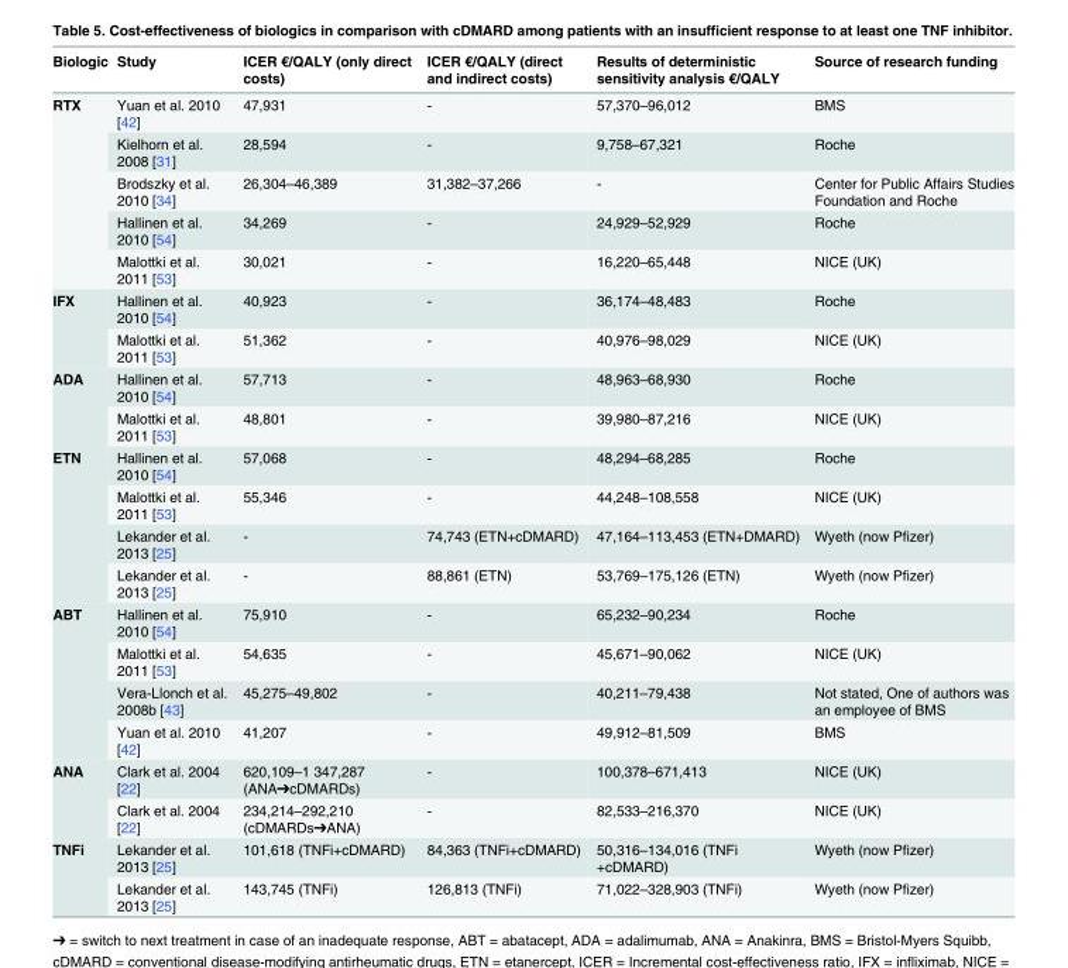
<table><thead><tr><td>Biologic</td><td>Study</td><td>ICER €/QALY (only direct costs)</td><td>ICER €/QALY (direct and indirect costs)</td><td>Results of deterministic sensitivity analysis €/QALY</td><td>Source of research funding</td></tr></thead><tbody><tr><td rowspan="5">RTX</td><td>Yuan et al. 2010 [42]</td><td>47,931</td><td>-</td><td>57,370–96,012</td><td>BMS</td></tr><tr><td>Kielhorn et al. 2008 [31]</td><td>28,594</td><td>-</td><td>9,758–67,321</td><td>Roche</td></tr><tr><td>Brodszky et al. 2010 [34]</td><td>26,304–46,389</td><td>31,382–37,266</td><td>-</td><td>Center for Public Affairs Studies Foundation and Roche</td></tr><tr><td>Hallinen et al. 2010 [54]</td><td>34,269</td><td>-</td><td>24,929–52,929</td><td>Roche</td></tr><tr><td>Malottki et al. 2011 [53]</td><td>30,021</td><td>-</td><td>16,220–65,448</td><td>NICE (UK)</td></tr><tr><td rowspan="2">IFX</td><td>Hallinen et al. 2010 [54]</td><td>40,923</td><td>-</td><td>36,174–48,483</td><td>Roche</td></tr><tr><td>Malottki et al. 2011 [53]</td><td>51,362</td><td>-</td><td>40,976–98,029</td><td>NICE (UK)</td></tr><tr><td rowspan="2">ADA</td><td>Hallinen et al. 2010 [54]</td><td>57,713</td><td>-</td><td>48,963–68,930</td><td>Roche</td></tr><tr><td>Malottki et al. 2011 [53]</td><td>48,801</td><td>-</td><td>39,980–87,216</td><td>NICE (UK)</td></tr><tr><td rowspan="4">ETN</td><td>Hallinen et al. 2010 [54]</td><td>57,068</td><td>-</td><td>48,294–68,285</td><td>Roche</td></tr><tr><td>Malottki et al. 2011 [53]</td><td>55,346</td><td>-</td><td>44,248–108,558</td><td>NICE (UK)</td></tr><tr><td>Lekander et al. 2013 [25]</td><td>-</td><td>74,743 (ETN+cDMARD)</td><td>47,164–113,453 (ETN+DMARD)</td><td>Wyeth (now Pfizer)</td></tr><tr><td>Lekander et al. 2013 [25]</td><td>-</td><td>88,861 (ETN)</td><td>53,769–175,126 (ETN)</td><td>Wyeth (now Pfizer)</td></tr><tr><td rowspan="4">ABT</td><td>Hallinen et al. 2010 [54]</td><td>75,910</td><td>-</td><td>65,232–90,234</td><td>Roche</td></tr><tr><td>Malottki et al. 2011 [53]</td><td>54,635</td><td>-</td><td>45,671–90,062</td><td>NICE (UK)</td></tr><tr><td>Vera-Llonch et al. 2008b [43]</td><td>45,275–49,802</td><td>-</td><td>40,211–79,438</td><td>Not stated, One of authors was an employee of BMS</td></tr><tr><td>Yuan et al. 2010 [42]</td><td>41,207</td><td>-</td><td>49,912–81,509</td><td>BMS</td></tr><tr><td rowspan="2">ANA</td><td>Clark et al. 2004 [22]</td><td>620,109–1 347,287 (ANA➔cDMARDs)</td><td>-</td><td>100,378–671,413</td><td>NICE (UK)</td></tr><tr><td>Clark et al. 2004 [22]</td><td>234,214–292,210 (cDMARDs➔ANA)</td><td>-</td><td>82,533–216,370</td><td>NICE (UK)</td></tr><tr><td rowspan="2">TNFi</td><td>Lekander et al. 2013 [25]</td><td>101,618 (TNFi+cDMARD)</td><td>84,363 (TNFi+cDMARD)</td><td>50,316–134,016 (TNFi +cDMARD)</td><td>Wyeth (now Pfizer)</td></tr><tr><td>Lekander et al. 2013 [25]</td><td>143,745 (TNFi)</td><td>126,813 (TNFi)</td><td>71,022–328,903 (TNFi)</td><td>Wyeth (now Pfizer)</td></tr></tbody></table>